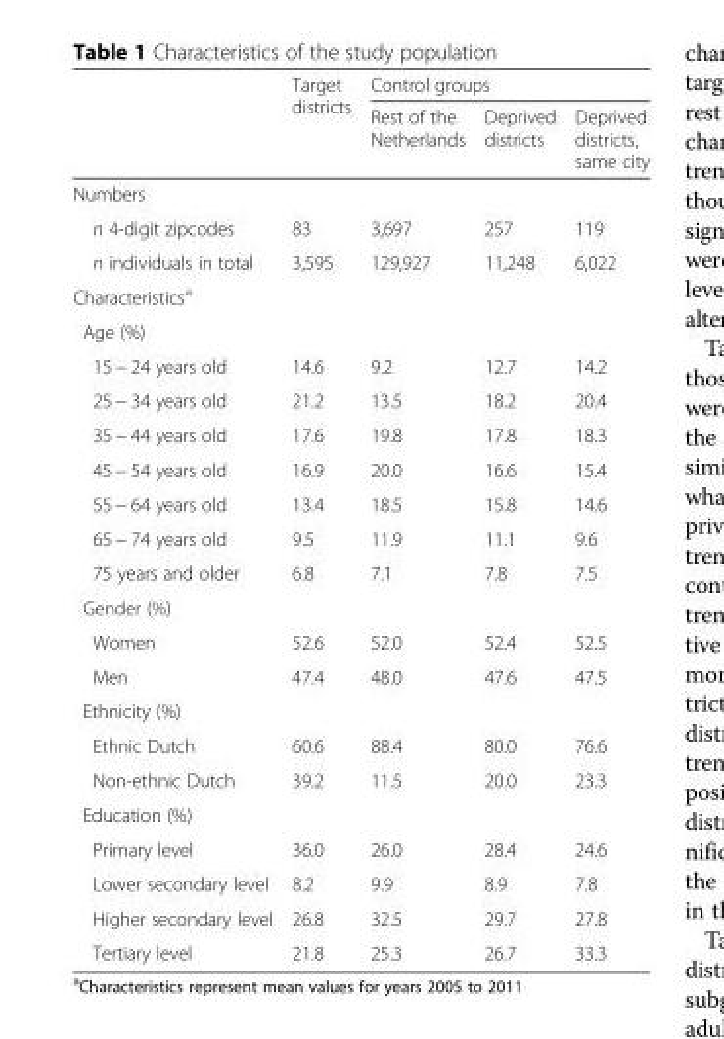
<table><thead><tr><td rowspan="2"></td><td rowspan="2">Target districts</td><td colspan="3">Control groups</td></tr><tr><td>Rest of the Netherlands</td><td>Deprived districts</td><td>Deprived districts, same city</td></tr></thead><tbody><tr><td colspan="5">Numbers</td></tr><tr><td>n 4-digit zipcodes</td><td>83</td><td>3,697</td><td>257</td><td>119</td></tr><tr><td>n individuals in total</td><td>3,595</td><td>129,927</td><td>11,248</td><td>6,022</td></tr><tr><td colspan="5">Characteristics<sup>a</sup></td></tr><tr><td colspan="5">Age (%)</td></tr><tr><td>15 − 24 years old</td><td>14.6</td><td>9.2</td><td>12.7</td><td>14.2</td></tr><tr><td>25 − 34 years old</td><td>21.2</td><td>13.5</td><td>18.2</td><td>20.4</td></tr><tr><td>35 − 44 years old</td><td>17.6</td><td>19.8</td><td>17.8</td><td>18.3</td></tr><tr><td>45 − 54 years old</td><td>16.9</td><td>20.0</td><td>16.6</td><td>15.4</td></tr><tr><td>55 − 64 years old</td><td>13.4</td><td>18.5</td><td>15.8</td><td>14.6</td></tr><tr><td>65 − 74 years old</td><td>9.5</td><td>11.9</td><td>11.1</td><td>9.6</td></tr><tr><td>75 years and older</td><td>6.8</td><td>7.1</td><td>7.8</td><td>7.5</td></tr><tr><td colspan="5">Gender (%)</td></tr><tr><td>Women</td><td>52.6</td><td>52.0</td><td>52.4</td><td>52.5</td></tr><tr><td>Men</td><td>47.4</td><td>48.0</td><td>47.6</td><td>47.5</td></tr><tr><td colspan="5">Ethnicity (%)</td></tr><tr><td>Ethnic Dutch</td><td>60.6</td><td>88.4</td><td>80.0</td><td>76.6</td></tr><tr><td>Non-ethnic Dutch</td><td>39.2</td><td>11.5</td><td>20.0</td><td>23.3</td></tr><tr><td colspan="5">Education (%)</td></tr><tr><td>Primary level</td><td>36.0</td><td>26.0</td><td>28.4</td><td>24.6</td></tr><tr><td>Lower secondary level</td><td>8.2</td><td>9.9</td><td>8.9</td><td>7.8</td></tr><tr><td>Higher secondary level</td><td>26.8</td><td>32.5</td><td>29.7</td><td>27.8</td></tr><tr><td>Tertiary level</td><td>21.8</td><td>25.3</td><td>26.7</td><td>33.3</td></tr></tbody></table>